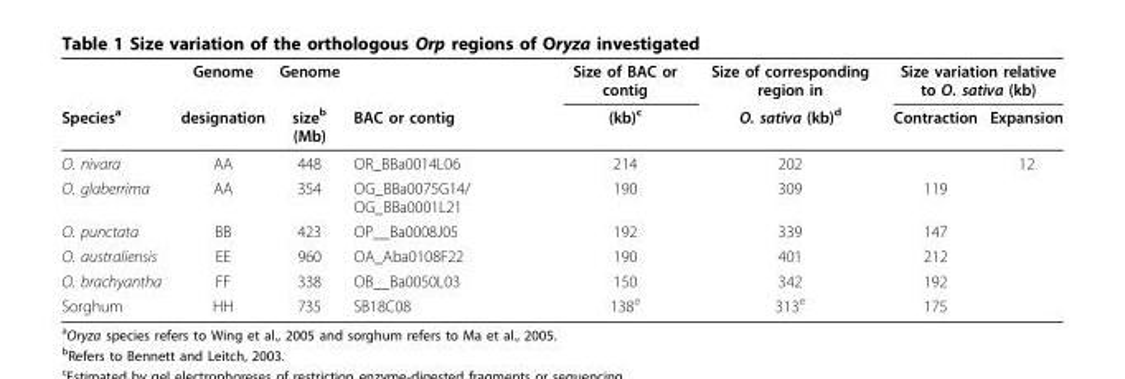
<table><thead><tr><td rowspan="2">Species<sup>a</sup></td><td rowspan="2">Genome designation</td><td rowspan="2">Genome size<sup>b</sup> (Mb)</td><td rowspan="2">BAC or contig</td><td rowspan="2">Size of BAC or contig (kb)<sup>c</sup></td><td rowspan="2">Size of corresponding region in O. sativa (kb)<sup>d</sup></td><td colspan="2">Size variation relative to O. sativa (kb)</td></tr><tr><td>Contraction</td><td>Expansion</td></tr></thead><tbody><tr><td>O. nivara</td><td>AA</td><td>448</td><td>OR_BBa0014L06</td><td>214</td><td>202</td><td></td><td>12</td></tr><tr><td>O. glaberrima</td><td>AA</td><td>354</td><td>OG_BBa0075G14/ OG_BBa0001L21</td><td>190</td><td>309</td><td>119</td><td></td></tr><tr><td>O. punctata</td><td>BB</td><td>423</td><td>OP__Ba0008J05</td><td>192</td><td>339</td><td>147</td><td></td></tr><tr><td>O. australiensis</td><td>EE</td><td>960</td><td>OA_Aba0108F22</td><td>190</td><td>401</td><td>212</td><td></td></tr><tr><td>O. brachyantha</td><td>FF</td><td>338</td><td>OB__Ba0050L03</td><td>150</td><td>342</td><td>192</td><td></td></tr><tr><td>Sorghum</td><td>HH</td><td>735</td><td>SB18C08</td><td>138<sup>e</sup></td><td>313<sup>e</sup></td><td>175</td><td></td></tr></tbody></table>